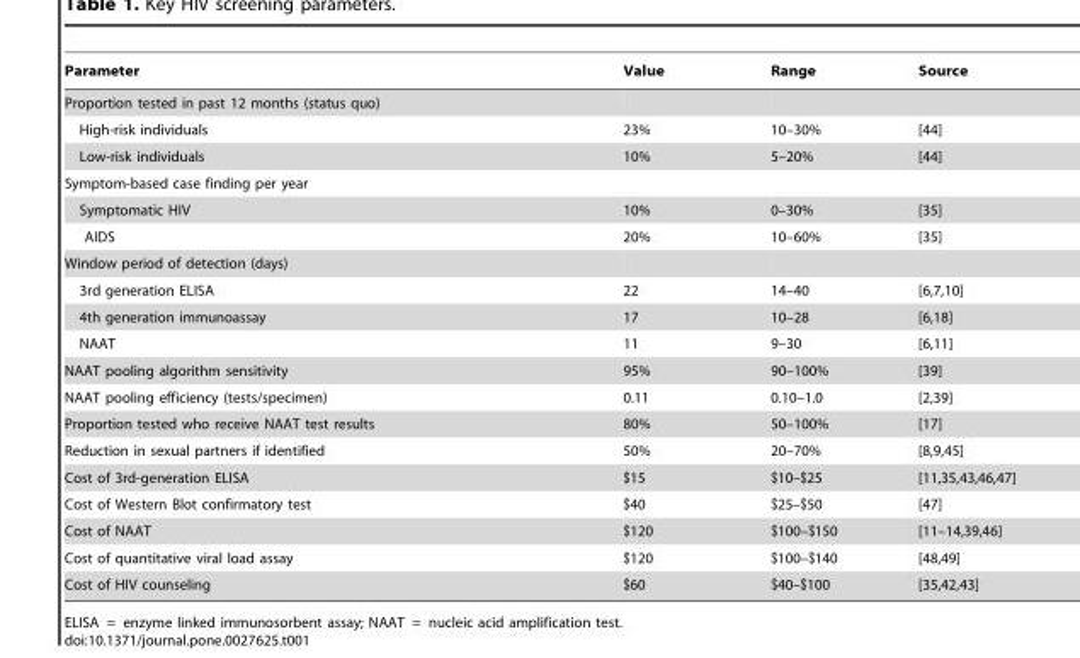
<table><thead><tr><td>Parameter</td><td>Value</td><td>Range</td><td>Source</td></tr></thead><tbody><tr><td colspan="4">Proportion tested in past 12 months (status quo)</td></tr><tr><td>High-risk individuals</td><td>23%</td><td>10–30%</td><td>[44]</td></tr><tr><td>Low-risk individuals</td><td>10%</td><td>5–20%</td><td>[44]</td></tr><tr><td colspan="4">Symptom-based case finding per year</td></tr><tr><td>Symptomatic HIV</td><td>10%</td><td>0–30%</td><td>[35]</td></tr><tr><td>AIDS</td><td>20%</td><td>10–60%</td><td>[35]</td></tr><tr><td colspan="4">Window period of detection (days)</td></tr><tr><td>3rd generation ELISA</td><td>22</td><td>14–40</td><td>[6,7,10]</td></tr><tr><td>4th generation immunoassay</td><td>17</td><td>10–28</td><td>[6,18]</td></tr><tr><td>NAAT</td><td>11</td><td>9–30</td><td>[6,11]</td></tr><tr><td>NAAT pooling algorithm sensitivity</td><td>95%</td><td>90–100%</td><td>[39]</td></tr><tr><td>NAAT pooling efficiency (tests/specimen)</td><td>0.11</td><td>0.10–1.0</td><td>[2,39]</td></tr><tr><td>Proportion tested who receive NAAT test results</td><td>80%</td><td>50–100%</td><td>[17]</td></tr><tr><td>Reduction in sexual partners if identified</td><td>50%</td><td>20–70%</td><td>[8,9,45]</td></tr><tr><td>Cost of 3rd-generation ELISA</td><td>$15</td><td>$10–$25</td><td>[11,35,43,46,47]</td></tr><tr><td>Cost of Western Blot confirmatory test</td><td>$40</td><td>$25–$50</td><td>[47]</td></tr><tr><td>Cost of NAAT</td><td>$120</td><td>$100–$150</td><td>[11–14,39,46]</td></tr><tr><td>Cost of quantitative viral load assay</td><td>$120</td><td>$100–$140</td><td>[48,49]</td></tr><tr><td>Cost of HIV counseling</td><td>$60</td><td>$40–$100</td><td>[35,42,43]</td></tr></tbody></table>